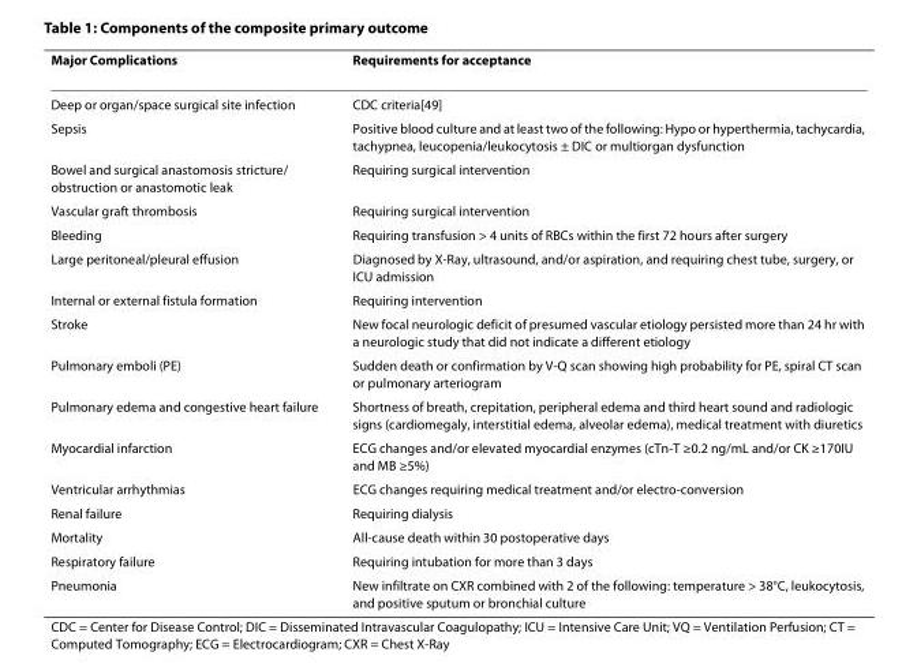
<table><thead><tr><td>Major Complications</td><td>Requirements for acceptance</td></tr></thead><tbody><tr><td>Deep or organ/space surgical site infection</td><td>CDC criteria[49]</td></tr><tr><td>Sepsis</td><td>Positive blood culture and at least two of the following: Hypo or hyperthermia, tachycardia, tachypnea, leucopenia/leukocytosis ± DIC or multiorgan dysfunction</td></tr><tr><td>Bowel and surgical anastomosis stricture/ obstruction or anastomotic leak</td><td>Requiring surgical intervention</td></tr><tr><td>Vascular graft thrombosis</td><td>Requiring surgical intervention</td></tr><tr><td>Bleeding</td><td>Requiring transfusion &gt; 4 units of RBCs within the first 72 hours after surgery</td></tr><tr><td>Large peritoneal/pleural effusion</td><td>Diagnosed by X-Ray, ultrasound, and/or aspiration, and requiring chest tube, surgery, or ICU admission</td></tr><tr><td>Internal or external fistula formation</td><td>Requiring intervention</td></tr><tr><td>Stroke</td><td>New focal neurologic deficit of presumed vascular etiology persisted more than 24 hr with a neurologic study that did not indicate a different etiology</td></tr><tr><td>Pulmonary emboli (PE)</td><td>Sudden death or confirmation by V-Q scan showing high probability for PE, spiral CT scan or pulmonary arteriogram</td></tr><tr><td>Pulmonary edema and congestive heart failure</td><td>Shortness of breath, crepitation, peripheral edema and third heart sound and radiologic signs (cardiomegaly, interstitial edema, alveolar edema), medical treatment with diuretics</td></tr><tr><td>Myocardial infarction</td><td>ECG changes and/or elevated myocardial enzymes (cTn-T ≥0.2 ng/mL and/or CK ≥170IU and MB ≥5%)</td></tr><tr><td>Ventricular arrhythmias</td><td>ECG changes requiring medical treatment and/or electro-conversion</td></tr><tr><td>Renal failure</td><td>Requiring dialysis</td></tr><tr><td>Mortality</td><td>All-cause death within 30 postoperative days</td></tr><tr><td>Respiratory failure</td><td>Requiring intubation for more than 3 days</td></tr><tr><td>Pneumonia</td><td>New infiltrate on CXR combined with 2 of the following: temperature &gt; 38°C, leukocytosis, and positive sputum or bronchial culture</td></tr></tbody></table>